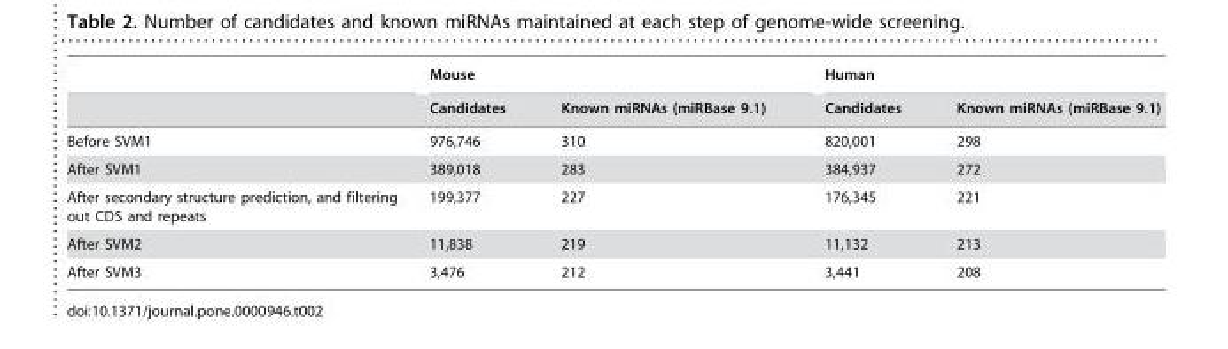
<table><thead><tr><td rowspan="2"></td><td colspan="2">Mouse</td><td colspan="2">Human</td></tr><tr><td>Candidates</td><td>Known miRNAs (miRBase 9.1)</td><td>Candidates</td><td>Known miRNAs (miRBase 9.1)</td></tr></thead><tbody><tr><td>Before SVM1</td><td>976,746</td><td>310</td><td>820,001</td><td>298</td></tr><tr><td>After SVM1</td><td>389,018</td><td>283</td><td>384,937</td><td>272</td></tr><tr><td>After secondary structure prediction, and filtering out CDS and repeats</td><td>199,377</td><td>227</td><td>176,345</td><td>221</td></tr><tr><td>After SVM2</td><td>11,838</td><td>219</td><td>11,132</td><td>213</td></tr><tr><td>After SVM3</td><td>3,476</td><td>212</td><td>3,441</td><td>208</td></tr></tbody></table>